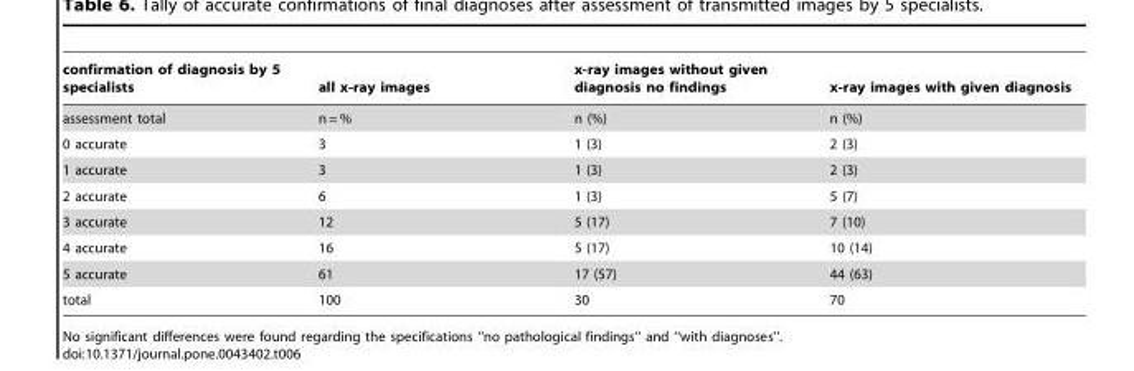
<table><thead><tr><td>confirmation of diagnosis by 5 specialists</td><td>all x-ray images</td><td>x-ray images without given diagnosis no findings</td><td>x-ray images with given diagnosis</td></tr></thead><tbody><tr><td>assessment total</td><td>n = %</td><td>n (%)</td><td>n (%)</td></tr><tr><td>0 accurate</td><td>3</td><td>1 (3)</td><td>2 (3)</td></tr><tr><td>1 accurate</td><td>3</td><td>1 (3)</td><td>2 (3)</td></tr><tr><td>2 accurate</td><td>6</td><td>1 (3)</td><td>5 (7)</td></tr><tr><td>3 accurate</td><td>12</td><td>5 (17)</td><td>7 (10)</td></tr><tr><td>4 accurate</td><td>16</td><td>5 (17)</td><td>10 (14)</td></tr><tr><td>5 accurate</td><td>61</td><td>17 (57)</td><td>44 (63)</td></tr><tr><td>total</td><td>100</td><td>30</td><td>70</td></tr></tbody></table>